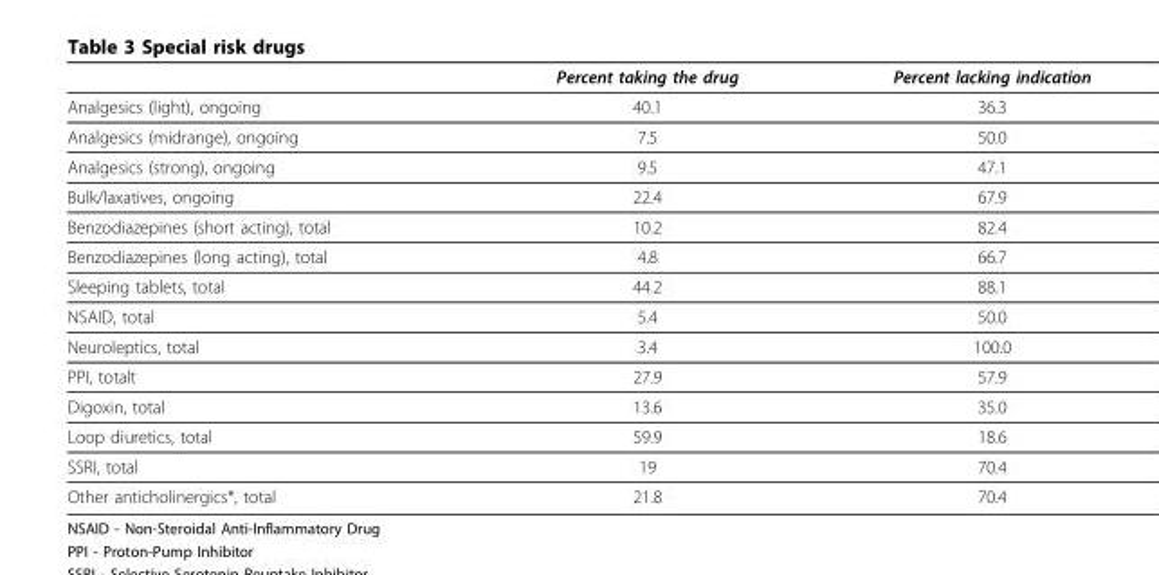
<table><thead><tr><td></td><td>Percent taking the drug</td><td>Percent lacking indication</td></tr></thead><tbody><tr><td>Analgesics (light), ongoing</td><td>40.1</td><td>36.3</td></tr><tr><td>Analgesics (midrange), ongoing</td><td>7.5</td><td>50.0</td></tr><tr><td>Analgesics (strong), ongoing</td><td>9.5</td><td>47.1</td></tr><tr><td>Bulk/laxatives, ongoing</td><td>22.4</td><td>67.9</td></tr><tr><td>Benzodiazepines (short acting), total</td><td>10.2</td><td>82.4</td></tr><tr><td>Benzodiazepines (long acting), total</td><td>4.8</td><td>66.7</td></tr><tr><td>Sleeping tablets, total</td><td>44.2</td><td>88.1</td></tr><tr><td>NSAID, total</td><td>5.4</td><td>50.0</td></tr><tr><td>Neuroleptics, total</td><td>3.4</td><td>100.0</td></tr><tr><td>PPI, totalt</td><td>27.9</td><td>57.9</td></tr><tr><td>Digoxin, total</td><td>13.6</td><td>35.0</td></tr><tr><td>Loop diuretics, total</td><td>59.9</td><td>18.6</td></tr><tr><td>SSRI, total</td><td>19</td><td>70.4</td></tr><tr><td>Other anticholinergics*, total</td><td>21.8</td><td>70.4</td></tr></tbody></table>